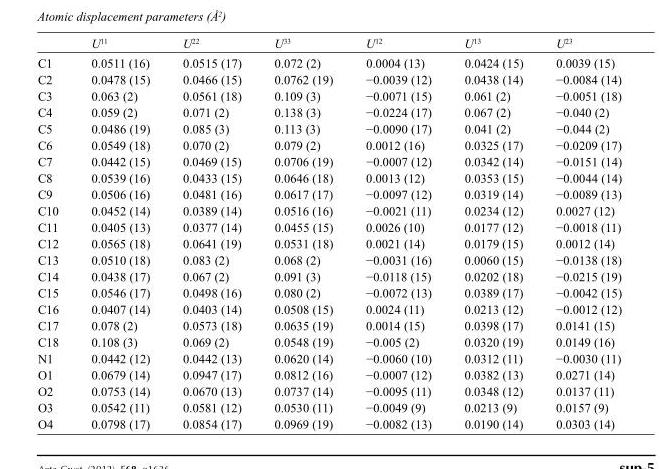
<table><thead><tr><td></td><td>U<sup>11</sup></td><td>U<sup>22</sup></td><td>U<sup>33</sup></td><td>U<sup>12</sup></td><td>U<sup>13</sup></td><td>U<sup>23</sup></td></tr></thead><tbody><tr><td>C1</td><td>0.0511 (16)</td><td>0.0515 (17)</td><td>0.072 (2)</td><td>0.0004 (13)</td><td>0.0424 (15)</td><td>0.0039 (15)</td></tr><tr><td>C2</td><td>0.0478 (15)</td><td>0.0466 (15)</td><td>0.0762 (19)</td><td>−0.0039 (12)</td><td>0.0438 (14)</td><td>−0.0084 (14)</td></tr><tr><td>C3</td><td>0.063 (2)</td><td>0.0561 (18)</td><td>0.109 (3)</td><td>−0.0071 (15)</td><td>0.061 (2)</td><td>−0.0051 (18)</td></tr><tr><td>C4</td><td>0.059 (2)</td><td>0.071 (2)</td><td>0.138 (3)</td><td>−0.0224 (17)</td><td>0.067 (2)</td><td>−0.040 (2)</td></tr><tr><td>C5</td><td>0.0486 (19)</td><td>0.085 (3)</td><td>0.113 (3)</td><td>−0.0090 (17)</td><td>0.041 (2)</td><td>−0.044 (2)</td></tr><tr><td>C6</td><td>0.0549 (18)</td><td>0.070 (2)</td><td>0.079 (2)</td><td>0.0012 (16)</td><td>0.0325 (17)</td><td>−0.0209 (17)</td></tr><tr><td>C7</td><td>0.0442 (15)</td><td>0.0469 (15)</td><td>0.0706 (19)</td><td>−0.0007 (12)</td><td>0.0342 (14)</td><td>−0.0151 (14)</td></tr><tr><td>C8</td><td>0.0539 (16)</td><td>0.0433 (15)</td><td>0.0646 (18)</td><td>0.0013 (12)</td><td>0.0353 (15)</td><td>−0.0044 (14)</td></tr><tr><td>C9</td><td>0.0506 (16)</td><td>0.0481 (16)</td><td>0.0617 (17)</td><td>−0.0097 (12)</td><td>0.0319 (14)</td><td>−0.0089 (13)</td></tr><tr><td>C10</td><td>0.0452 (14)</td><td>0.0389 (14)</td><td>0.0516 (16)</td><td>−0.0021 (11)</td><td>0.0234 (12)</td><td>0.0027 (12)</td></tr><tr><td>C11</td><td>0.0405 (13)</td><td>0.0377 (14)</td><td>0.0455 (15)</td><td>0.0026 (10)</td><td>0.0177 (12)</td><td>−0.0018 (11)</td></tr><tr><td>C12</td><td>0.0565 (18)</td><td>0.0641 (19)</td><td>0.0531 (18)</td><td>0.0021 (14)</td><td>0.0179 (15)</td><td>0.0012 (14)</td></tr><tr><td>C13</td><td>0.0510 (18)</td><td>0.083 (2)</td><td>0.068 (2)</td><td>−0.0031 (16)</td><td>0.0060 (15)</td><td>−0.0138 (18)</td></tr><tr><td>C14</td><td>0.0438 (17)</td><td>0.067 (2)</td><td>0.091 (3)</td><td>−0.0118 (15)</td><td>0.0202 (18)</td><td>−0.0215 (19)</td></tr><tr><td>C15</td><td>0.0546 (17)</td><td>0.0498 (16)</td><td>0.080 (2)</td><td>−0.0072 (13)</td><td>0.0389 (17)</td><td>−0.0042 (15)</td></tr><tr><td>C16</td><td>0.0407 (14)</td><td>0.0403 (14)</td><td>0.0508 (15)</td><td>0.0024 (11)</td><td>0.0213 (12)</td><td>−0.0012 (12)</td></tr><tr><td>C17</td><td>0.078 (2)</td><td>0.0573 (18)</td><td>0.0635 (19)</td><td>0.0014 (15)</td><td>0.0398 (17)</td><td>0.0141 (15)</td></tr><tr><td>C18</td><td>0.108 (3)</td><td>0.069 (2)</td><td>0.0548 (19)</td><td>−0.005 (2)</td><td>0.0320 (19)</td><td>0.0149 (16)</td></tr><tr><td>N1</td><td>0.0442 (12)</td><td>0.0442 (13)</td><td>0.0620 (14)</td><td>−0.0060 (10)</td><td>0.0312 (11)</td><td>−0.0030 (11)</td></tr><tr><td>O1</td><td>0.0679 (14)</td><td>0.0947 (17)</td><td>0.0812 (16)</td><td>−0.0007 (12)</td><td>0.0382 (13)</td><td>0.0271 (14)</td></tr><tr><td>O2</td><td>0.0753 (14)</td><td>0.0670 (13)</td><td>0.0737 (14)</td><td>−0.0095 (11)</td><td>0.0348 (12)</td><td>0.0137 (11)</td></tr><tr><td>O3</td><td>0.0542 (11)</td><td>0.0581 (12)</td><td>0.0530 (11)</td><td>−0.0049 (9)</td><td>0.0213 (9)</td><td>0.0157 (9)</td></tr><tr><td>O4</td><td>0.0798 (17)</td><td>0.0854 (17)</td><td>0.0969 (19)</td><td>−0.0082 (13)</td><td>0.0190 (14)</td><td>0.0303 (14)</td></tr></tbody></table>